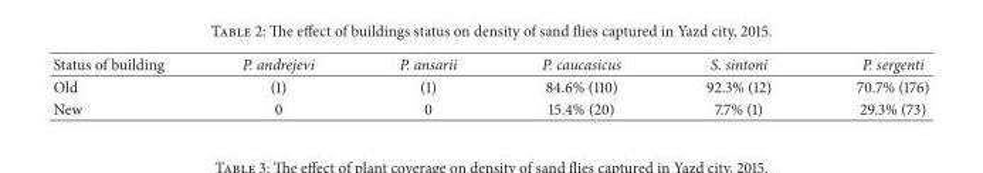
<table><thead><tr><td>Status of building</td><td>P. andrejevi</td><td>P. ansarii</td><td>P. caucasicus</td><td>S. sintoni</td><td>P. sergenti</td></tr></thead><tbody><tr><td>Old</td><td>(1)</td><td>(1)</td><td>84.6% (110)</td><td>92.3% (12)</td><td>70.7% (176)</td></tr><tr><td>New</td><td>0</td><td>0</td><td>15.4% (20)</td><td>7.7% (1)</td><td>29.3% (73)</td></tr></tbody></table>